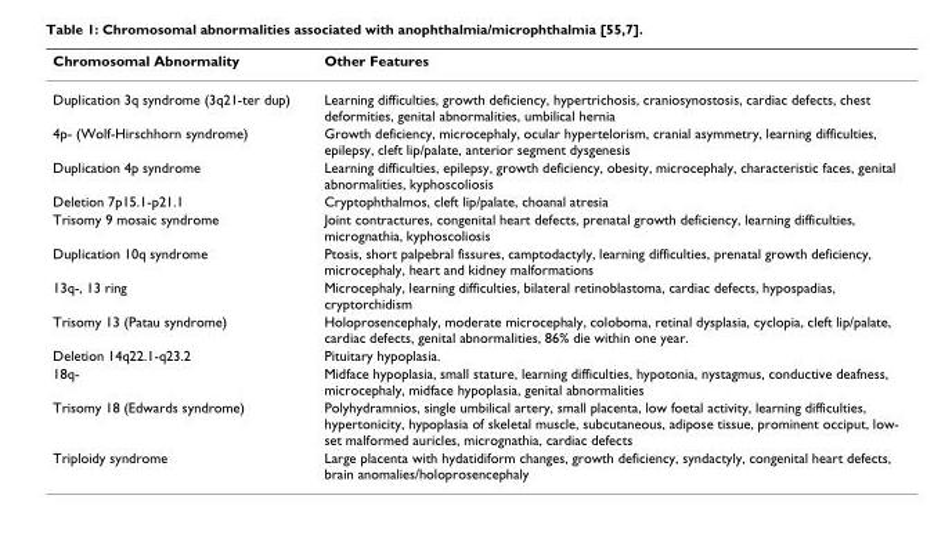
<table><thead><tr><td>Chromosomal Abnormality</td><td>Other Features</td></tr></thead><tbody><tr><td>Duplication 3q syndrome (3q21-ter dup)</td><td>Learning difficulties, growth deficiency, hypertrichosis, craniosynostosis, cardiac defects, chest deformities, genital abnormalities, umbilical hernia</td></tr><tr><td>4p- (Wolf-Hirschhorn syndrome)</td><td>Growth deficiency, microcephaly, ocular hypertelorism, cranial asymmetry, learning difficulties, epilepsy, cleft lip/palate, anterior segment dysgenesis</td></tr><tr><td>Duplication 4p syndrome</td><td>Learning difficulties, epilepsy, growth deficiency, obesity, microcephaly, characteristic faces, genital abnormalities, kyphoscoliosis</td></tr><tr><td>Deletion 7p15.1-p21.1</td><td>Cryptophthalmos, cleft lip/palate, choanal atresia</td></tr><tr><td>Trisomy 9 mosaic syndrome</td><td>Joint contractures, congenital heart defects, prenatal growth deficiency, learning difficulties, micrognathia, kyphoscoliosis</td></tr><tr><td>Duplication 10q syndrome</td><td>Ptosis, short palpebral fissures, camptodactyly, learning difficulties, prenatal growth deficiency, microcephaly, heart and kidney malformations</td></tr><tr><td>13q-, 13 ring</td><td>Microcephaly, learning difficulties, bilateral retinoblastoma, cardiac defects, hypospadias, cryptorchidism</td></tr><tr><td>Trisomy 13 (Patau syndrome)</td><td>Holoprosencephaly, moderate microcephaly, coloboma, retinal dysplasia, cyclopia, cleft lip/palate, cardiac defects, genital abnormalities, 86% die within one year.</td></tr><tr><td>Deletion 14q22.1-q23.2</td><td>Pituitary hypoplasia.</td></tr><tr><td>18q-</td><td>Midface hypoplasia, small stature, learning difficulties, hypotonia, nystagmus, conductive deafness, microcephaly, midface hypoplasia, genital abnormalities</td></tr><tr><td>Trisomy 18 (Edwards syndrome)</td><td>Polyhydramnios, single umbilical artery, small placenta, low foetal activity, learning difficulties, hypertonicity, hypoplasia of skeletal muscle, subcutaneous, adipose tissue, prominent occiput, low- set malformed auricles, micrognathia, cardiac defects</td></tr><tr><td>Triploidy syndrome</td><td>Large placenta with hydatidiform changes, growth deficiency, syndactyly, congenital heart defects, brain anomalies/holoprosencephaly</td></tr></tbody></table>